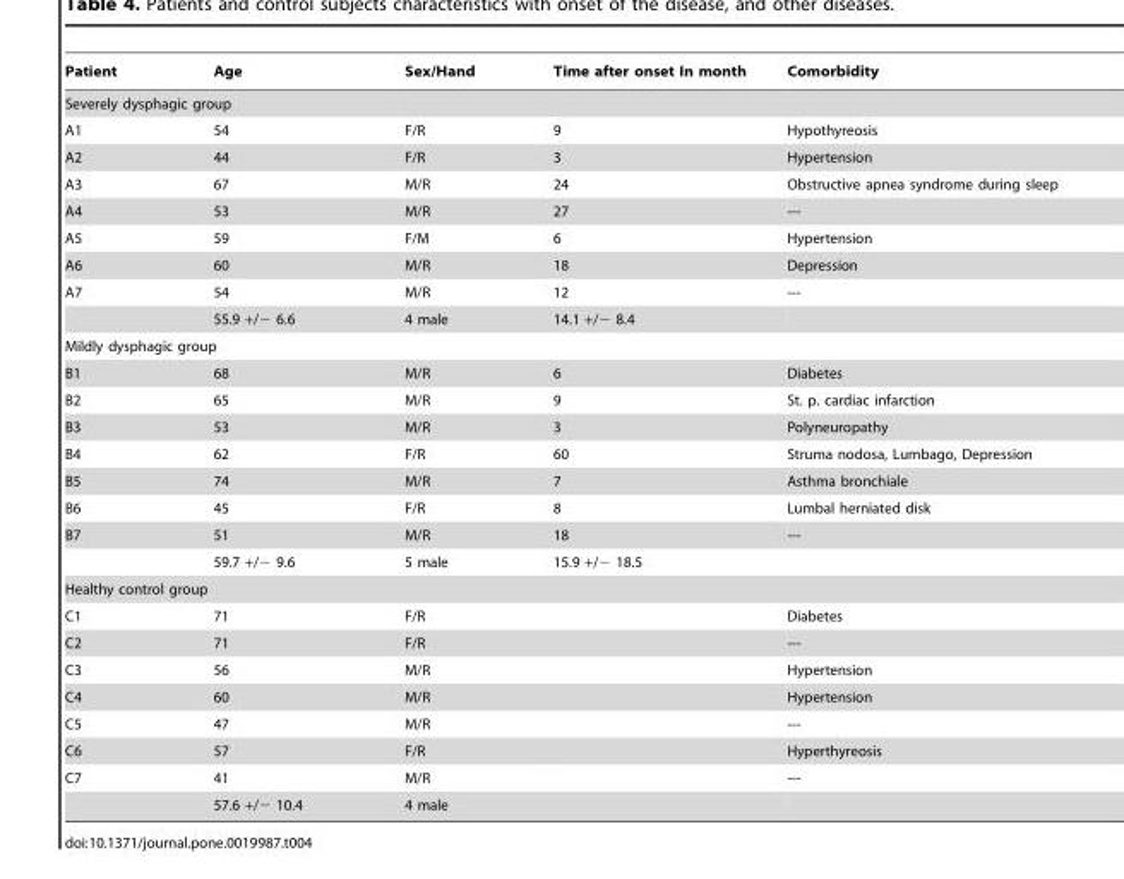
<table><thead><tr><td>Patient</td><td>Age</td><td>Sex/Hand</td><td>Time after onset In month</td><td>Comorbidity</td></tr></thead><tbody><tr><td colspan="5">Severely dysphagic group</td></tr><tr><td>A1</td><td>54</td><td>F/R</td><td>9</td><td>Hypothyreosis</td></tr><tr><td>A2</td><td>44</td><td>F/R</td><td>3</td><td>Hypertension</td></tr><tr><td>A3</td><td>67</td><td>M/R</td><td>24</td><td>Obstructive apnea syndrome during sleep</td></tr><tr><td>A4</td><td>53</td><td>M/R</td><td>27</td><td>---</td></tr><tr><td>A5</td><td>59</td><td>F/M</td><td>6</td><td>Hypertension</td></tr><tr><td>A6</td><td>60</td><td>M/R</td><td>18</td><td>Depression</td></tr><tr><td rowspan="2">A7</td><td>54</td><td>M/R</td><td>12</td><td>---</td></tr><tr><td>55.9 +/− 6.6</td><td>4 male</td><td>14.1 +/− 8.4</td><td></td></tr><tr><td colspan="5">Mildly dysphagic group</td></tr><tr><td>B1</td><td>68</td><td>M/R</td><td>6</td><td>Diabetes</td></tr><tr><td>B2</td><td>65</td><td>M/R</td><td>9</td><td>St. p. cardiac infarction</td></tr><tr><td>B3</td><td>53</td><td>M/R</td><td>3</td><td>Polyneuropathy</td></tr><tr><td>B4</td><td>62</td><td>F/R</td><td>60</td><td>Struma nodosa, Lumbago, Depression</td></tr><tr><td>B5</td><td>74</td><td>M/R</td><td>7</td><td>Asthma bronchiale</td></tr><tr><td>B6</td><td>45</td><td>F/R</td><td>8</td><td>Lumbal herniated disk</td></tr><tr><td rowspan="2">B7</td><td>51</td><td>M/R</td><td>18</td><td>---</td></tr><tr><td>59.7 +/− 9.6</td><td>5 male</td><td>15.9 +/− 18.5</td><td></td></tr><tr><td colspan="5">Healthy control group</td></tr><tr><td>C1</td><td>71</td><td>F/R</td><td></td><td>Diabetes</td></tr><tr><td>C2</td><td>71</td><td>F/R</td><td></td><td>---</td></tr><tr><td>C3</td><td>56</td><td>M/R</td><td></td><td>Hypertension</td></tr><tr><td>C4</td><td>60</td><td>M/R</td><td></td><td>Hypertension</td></tr><tr><td>C5</td><td>47</td><td>M/R</td><td></td><td>---</td></tr><tr><td>C6</td><td>57</td><td>F/R</td><td></td><td>Hyperthyreosis</td></tr><tr><td rowspan="2">C7</td><td>41</td><td>M/R</td><td></td><td>---</td></tr><tr><td>57.6 +/− 10.4</td><td>4 male</td><td></td><td></td></tr></tbody></table>